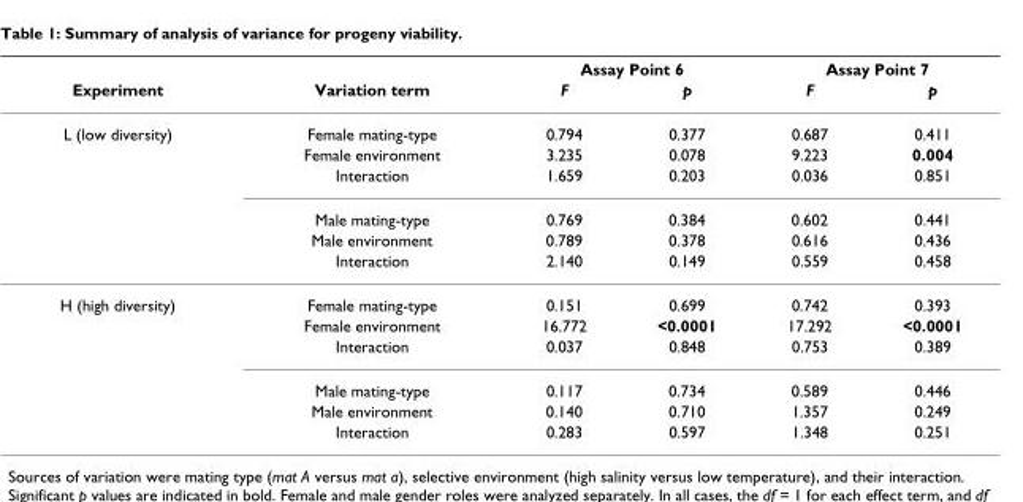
<table><thead><tr><td rowspan="2">Experiment</td><td rowspan="2">Variation term</td><td colspan="2">Assay Point 6</td><td colspan="2">Assay Point 7</td></tr><tr><td>F</td><td>p</td><td>F</td><td>p</td></tr></thead><tbody><tr><td rowspan="6">L (low diversity)</td><td>Female mating-type</td><td>0.794</td><td>0.377</td><td>0.687</td><td>0.411</td></tr><tr><td>Female environment</td><td>3.235</td><td>0.078</td><td>9.223</td><td>0.004</td></tr><tr><td>Interaction</td><td>1.659</td><td>0.203</td><td>0.036</td><td>0.851</td></tr><tr><td>Male mating-type</td><td>0.769</td><td>0.384</td><td>0.602</td><td>0.441</td></tr><tr><td>Male environment</td><td>0.789</td><td>0.378</td><td>0.616</td><td>0.436</td></tr><tr><td>Interaction</td><td>2.140</td><td>0.149</td><td>0.559</td><td>0.458</td></tr><tr><td rowspan="6">H (high diversity)</td><td>Female mating-type</td><td>0.151</td><td>0.699</td><td>0.742</td><td>0.393</td></tr><tr><td>Female environment</td><td>16.772</td><td>&lt;0.0001</td><td>17.292</td><td>&lt;0.0001</td></tr><tr><td>Interaction</td><td>0.037</td><td>0.848</td><td>0.753</td><td>0.389</td></tr><tr><td>Male mating-type</td><td>0.117</td><td>0.734</td><td>0.589</td><td>0.446</td></tr><tr><td>Male environment</td><td>0.140</td><td>0.710</td><td>1.357</td><td>0.249</td></tr><tr><td>Interaction</td><td>0.283</td><td>0.597</td><td>1.348</td><td>0.251</td></tr></tbody></table>